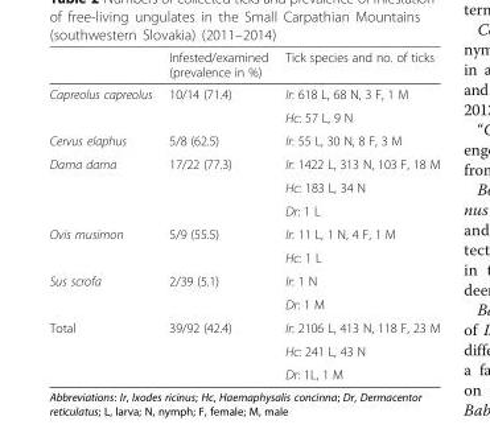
<table><thead><tr><td></td><td>Infested/examined (prevalence in %)</td><td>Tick species and no. of ticks</td></tr></thead><tbody><tr><td rowspan="2">Capreolus capreolus</td><td rowspan="2">10/14 (71.4)</td><td>Ir: 618 L, 68 N, 3 F, 1 M</td></tr><tr><td>Hc: 57 L, 9 N</td></tr><tr><td>Cervus elaphus</td><td>5/8 (62.5)</td><td>Ir: 55 L, 30 N, 8 F, 3 M</td></tr><tr><td rowspan="3">Dama dama</td><td rowspan="3">17/22 (77.3)</td><td>Ir: 1422 L, 313 N, 103 F, 18 M</td></tr><tr><td>Hc: 183 L, 34 N</td></tr><tr><td>Dr: 1 L</td></tr><tr><td rowspan="2">Ovis musimon</td><td rowspan="2">5/9 (55.5)</td><td>Ir: 11 L, 1 N, 4 F, 1 M</td></tr><tr><td>Hc: 1 L</td></tr><tr><td rowspan="2">Sus scrofa</td><td rowspan="2">2/39 (5.1)</td><td>Ir: 1 N</td></tr><tr><td>Dr: 1 M</td></tr><tr><td rowspan="3">Total</td><td rowspan="3">39/92 (42.4)</td><td>Ir: 2106 L, 413 N, 118 F, 23 M</td></tr><tr><td>Hc: 241 L, 43 N</td></tr><tr><td>Dr: 1L, 1 M</td></tr></tbody></table>